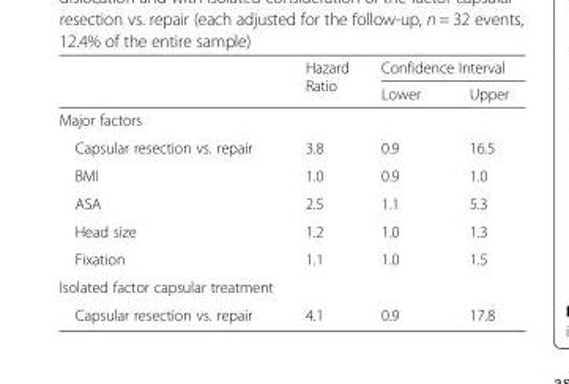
<table><thead><tr><td rowspan="2"></td><td rowspan="2">Hazard Ratio</td><td colspan="2">Confidence Interval</td></tr><tr><td>Lower</td><td>Upper</td></tr></thead><tbody><tr><td colspan="4">Major factors</td></tr><tr><td>Capsular resection vs. repair</td><td>3.8</td><td>0.9</td><td>16.5</td></tr><tr><td>BMI</td><td>1.0</td><td>0.9</td><td>1.0</td></tr><tr><td>ASA</td><td>2.5</td><td>1.1</td><td>5.3</td></tr><tr><td>Head size</td><td>1.2</td><td>1.0</td><td>1.3</td></tr><tr><td>Fixation</td><td>1.1</td><td>1.0</td><td>1.5</td></tr><tr><td colspan="4">Isolated factor capsular treatment</td></tr><tr><td>Capsular resection vs. repair</td><td>4.1</td><td>0.9</td><td>17.8</td></tr></tbody></table>